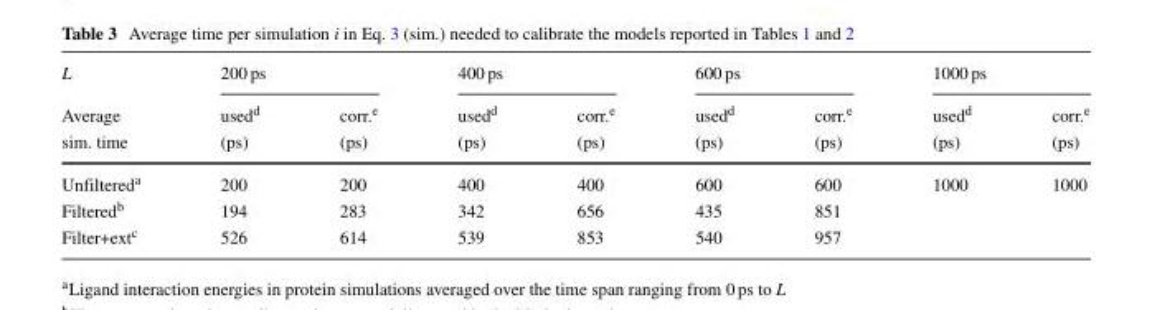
<table><thead><tr><td rowspan="3">L Average sim. time</td><td colspan="2">200 ps</td><td colspan="2">400 ps</td><td colspan="2">600 ps</td><td colspan="2">1000 ps</td></tr><tr><td rowspan="2">used<sup>d</sup> (ps)</td><td rowspan="2">corr.<sup>e</sup> (ps)</td><td rowspan="2">used<sup>d</sup> (ps)</td><td rowspan="2">corr.<sup>e</sup> (ps)</td><td rowspan="2">used<sup>d</sup> (ps)</td><td rowspan="2">corr.<sup>e</sup> (ps)</td><td rowspan="2">used<sup>d</sup> (ps)</td><td rowspan="2">corr.<sup>e</sup> (ps)</td></tr><tr></tr></thead><tbody><tr><td>Unfiltered<sup>a</sup></td><td>200</td><td>200</td><td>400</td><td>400</td><td>600</td><td>600</td><td>1000</td><td>1000</td></tr><tr><td>Filtered<sup>b</sup></td><td>194</td><td>283</td><td>342</td><td>656</td><td>435</td><td>851</td><td></td><td></td></tr><tr><td>Filter+ext<sup>c</sup></td><td>526</td><td>614</td><td>539</td><td>853</td><td>540</td><td>957</td><td></td><td></td></tr></tbody></table>